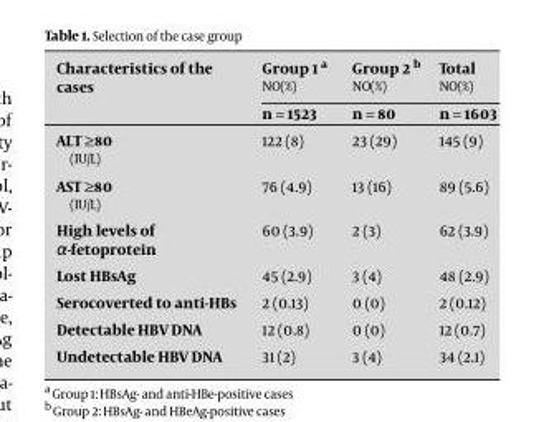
<table><thead><tr><td rowspan="2">Characteristics of the cases</td><td rowspan="2">Group 1 a NO(%) n = 1523</td><td rowspan="2">Group 2 b NO(%) n = 80</td><td rowspan="2">Total NO(%) n = 1603</td></tr><tr></tr></thead><tbody><tr><td>ALT ≥80 (IU/L)</td><td>122 (8)</td><td>23 (29)</td><td>145 (9)</td></tr><tr><td>AST ≥80 (IU/L)</td><td>76 (4.9)</td><td>13 (16)</td><td>89 (5.6)</td></tr><tr><td>High levels of α-fetoprotein</td><td>60 (3.9)</td><td>2 (3)</td><td>62 (3.9)</td></tr><tr><td>Lost HBsAg</td><td>45 (2.9)</td><td>3 (4)</td><td>48 (2.9)</td></tr><tr><td>Serocoverted to anti-HBs</td><td>2 (0.13)</td><td>0 (0)</td><td>2 (0.12)</td></tr><tr><td>Detectable HBV DNA</td><td>12 (0.8)</td><td>0 (0)</td><td>12 (0.7)</td></tr><tr><td>Undetectable HBV DNA</td><td>31 (2)</td><td>3 (4)</td><td>34 (2.1)</td></tr></tbody></table>